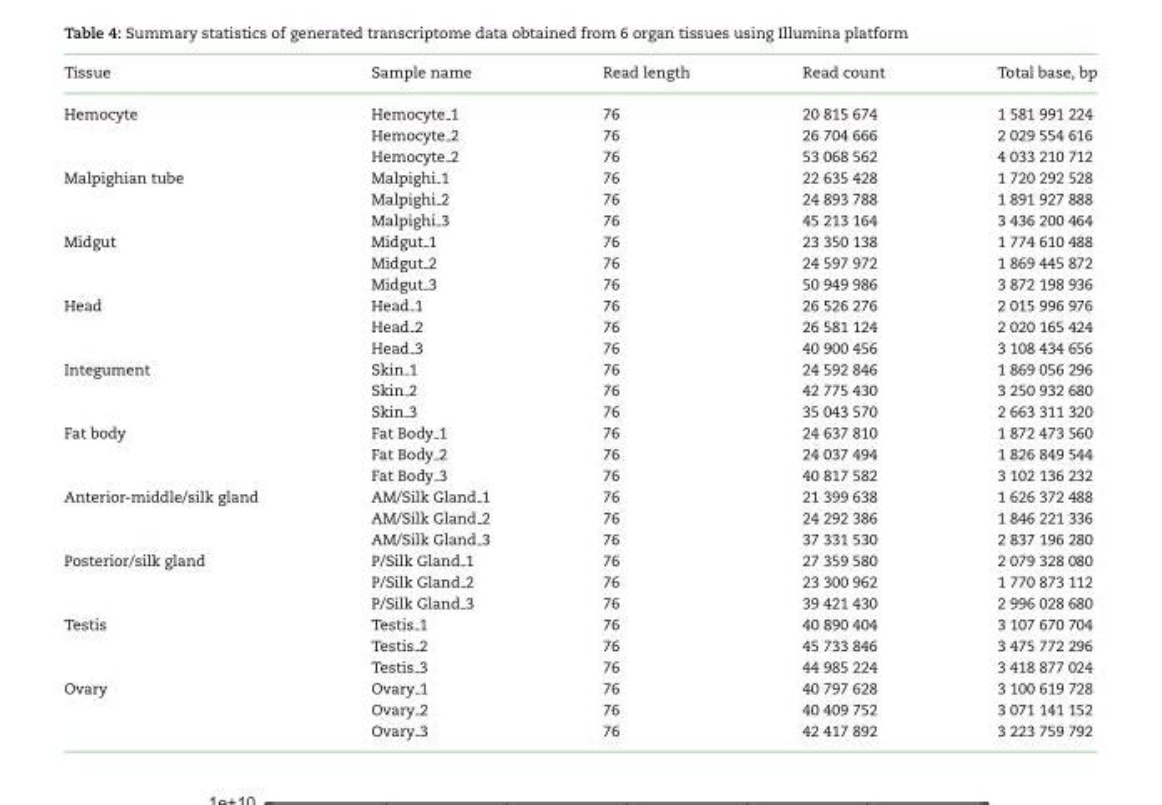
<table><thead><tr><td>Tissue</td><td>Sample name</td><td>Read length</td><td>Read count</td><td>Total base, bp</td></tr></thead><tbody><tr><td rowspan="3">Hemocyte</td><td>Hemocyte 1</td><td>76</td><td>20 815 674</td><td>1 581 991 224</td></tr><tr><td>Hemocyte 2</td><td>76</td><td>26 704 666</td><td>2 029 554 616</td></tr><tr><td>Hemocyte 2</td><td>76</td><td>53 068 562</td><td>4 033 210 712</td></tr><tr><td rowspan="3">Malpighian tube</td><td>Malpighi 1</td><td>76</td><td>22 635 428</td><td>1 720 292 528</td></tr><tr><td>Malpighi 2</td><td>76</td><td>24 893 788</td><td>1 891 927 888</td></tr><tr><td>Malpighi 3</td><td>76</td><td>45 213 164</td><td>3 436 200 464</td></tr><tr><td rowspan="3">Midgut</td><td>Midgut 1</td><td>76</td><td>23 350 138</td><td>1 774 610 488</td></tr><tr><td>Midgut 2</td><td>76</td><td>24 597 972</td><td>1 869 445 872</td></tr><tr><td>Midgut 3</td><td>76</td><td>50 949 986</td><td>3 872 198 936</td></tr><tr><td rowspan="3">Head</td><td>Head 1</td><td>76</td><td>26 526 276</td><td>2 015 996 976</td></tr><tr><td>Head 2</td><td>76</td><td>26 581 124</td><td>2 020 165 424</td></tr><tr><td>Head 3</td><td>76</td><td>40 900 456</td><td>3 108 434 656</td></tr><tr><td rowspan="3">Integument</td><td>Skin 1</td><td>76</td><td>24 592 846</td><td>1 869 056 296</td></tr><tr><td>Skin 2</td><td>76</td><td>42 775 430</td><td>3 250 932 680</td></tr><tr><td>Skin 3</td><td>76</td><td>35 043 570</td><td>2 663 311 320</td></tr><tr><td rowspan="3">Fat body</td><td>Fat Body 1</td><td>76</td><td>24 637 810</td><td>1 872 473 560</td></tr><tr><td>Fat Body 2</td><td>76</td><td>24 037 494</td><td>1 826 849 544</td></tr><tr><td>Fat Body 3</td><td>76</td><td>40 817 582</td><td>3 102 136 232</td></tr><tr><td rowspan="3">Anterior-middle/silk gland</td><td>AM/Silk Gland 1</td><td>76</td><td>21 399 638</td><td>1 626 372 488</td></tr><tr><td>AM/Silk Gland 2</td><td>76</td><td>24 292 386</td><td>1 846 221 336</td></tr><tr><td>AM/Silk Gland 3</td><td>76</td><td>37 331 530</td><td>2 837 196 280</td></tr><tr><td rowspan="3">Posterior/silk gland</td><td>P/Silk Gland 1</td><td>76</td><td>27 359 580</td><td>2 079 328 080</td></tr><tr><td>P/Silk Gland 2</td><td>76</td><td>23 300 962</td><td>1 770 873 112</td></tr><tr><td>P/Silk Gland 3</td><td>76</td><td>39 421 430</td><td>2 996 028 680</td></tr><tr><td rowspan="3">Testis</td><td>Testis 1</td><td>76</td><td>40 890 404</td><td>3 107 670 704</td></tr><tr><td>Testis 2</td><td>76</td><td>45 733 846</td><td>3 475 772 296</td></tr><tr><td>Testis 3</td><td>76</td><td>44 985 224</td><td>3 418 877 024</td></tr><tr><td rowspan="3">Ovary</td><td>Ovary 1</td><td>76</td><td>40 797 628</td><td>3 100 619 728</td></tr><tr><td>Ovary 2</td><td>76</td><td>40 409 752</td><td>3 071 141 152</td></tr><tr><td>Ovary 3</td><td>76</td><td>42 417 892</td><td>3 223 759 792</td></tr></tbody></table>